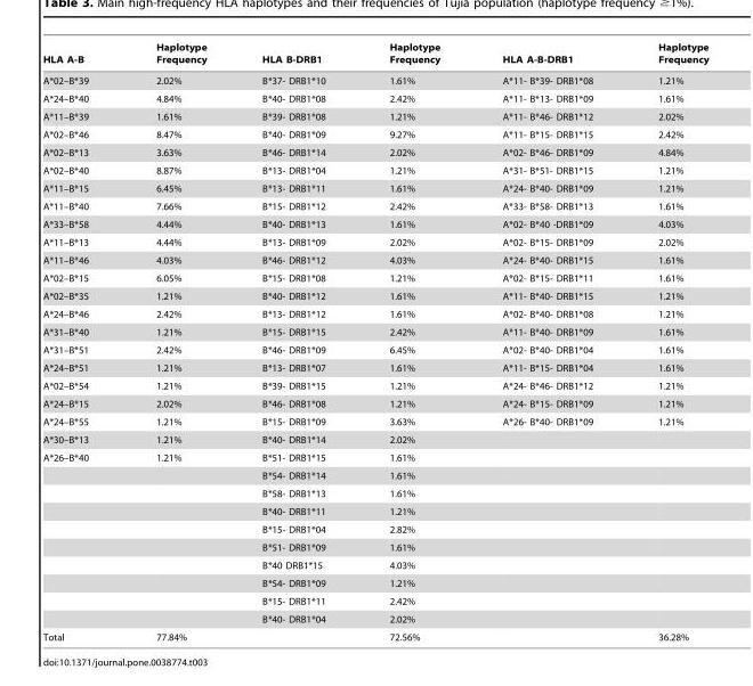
<table><thead><tr><td>HLA A-B</td><td>Haplotype Frequency</td><td>HLA B-DRB1</td><td>Haplotype Frequency</td><td>HLA A-B-DRB1</td><td>Haplotype Frequency</td></tr></thead><tbody><tr><td>A*02–B*39</td><td>2.02%</td><td>B*37- DRB1*10</td><td>1.61%</td><td>A*11- B*39- DRB1*08</td><td>1.21%</td></tr><tr><td>A*24–B*40</td><td>4.84%</td><td>B*40- DRB1*08</td><td>2.42%</td><td>A*11- B*13- DRB1*09</td><td>1.61%</td></tr><tr><td>A*11–B*39</td><td>1.61%</td><td>B*39- DRB1*08</td><td>1.21%</td><td>A*11- B*46- DRB1*12</td><td>2.02%</td></tr><tr><td>A*02–B*46</td><td>8.47%</td><td>B*40- DRB1*09</td><td>9.27%</td><td>A*11- B*15- DRB1*15</td><td>2.42%</td></tr><tr><td>A*02–B*13</td><td>3.63%</td><td>B*46- DRB1*14</td><td>2.02%</td><td>A*02- B*46- DRB1*09</td><td>4.84%</td></tr><tr><td>A*02–B*40</td><td>8.87%</td><td>B*13- DRB1*04</td><td>1.21%</td><td>A*31- B*51- DRB1*15</td><td>1.21%</td></tr><tr><td>A*11–B*15</td><td>6.45%</td><td>B*13- DRB1*11</td><td>1.61%</td><td>A*24- B*40- DRB1*09</td><td>1.21%</td></tr><tr><td>A*11–B*40</td><td>7.66%</td><td>B*15- DRB1*12</td><td>2.42%</td><td>A*33- B*58- DRB1*13</td><td>1.61%</td></tr><tr><td>A*33–B*58</td><td>4.44%</td><td>B*40- DRB1*13</td><td>1.61%</td><td>A*02- B*40 -DRB1*09</td><td>4.03%</td></tr><tr><td>A*11–B*13</td><td>4.44%</td><td>B*13- DRB1*09</td><td>2.02%</td><td>A*02- B*15- DRB1*09</td><td>2.02%</td></tr><tr><td>A*11–B*46</td><td>4.03%</td><td>B*46- DRB1*12</td><td>4.03%</td><td>A*24- B*40- DRB1*15</td><td>1.61%</td></tr><tr><td>A*02–B*15</td><td>6.05%</td><td>B*15- DRB1*08</td><td>1.21%</td><td>A*02- B*15- DRB1*11</td><td>1.61%</td></tr><tr><td>A*02–B*35</td><td>1.21%</td><td>B*40- DRB1*12</td><td>1.61%</td><td>A*11- B*40- DRB1*15</td><td>1.21%</td></tr><tr><td>A*24–B*46</td><td>2.42%</td><td>B*13- DRB1*12</td><td>1.61%</td><td>A*02- B*40- DRB1*08</td><td>1.21%</td></tr><tr><td>A*31–B*40</td><td>1.21%</td><td>B*15- DRB1*15</td><td>2.42%</td><td>A*11- B*40- DRB1*09</td><td>1.61%</td></tr><tr><td>A*31–B*51</td><td>2.42%</td><td>B*46- DRB1*09</td><td>6.45%</td><td>A*02- B*40- DRB1*04</td><td>1.61%</td></tr><tr><td>A*24–B*51</td><td>1.21%</td><td>B*13- DRB1*07</td><td>1.61%</td><td>A*11- B*15- DRB1*04</td><td>1.61%</td></tr><tr><td>A*02–B*54</td><td>1.21%</td><td>B*39- DRB1*15</td><td>1.21%</td><td>A*24- B*46- DRB1*12</td><td>1.21%</td></tr><tr><td>A*24–B*15</td><td>2.02%</td><td>B*46- DRB1*08</td><td>1.21%</td><td>A*24- B*15- DRB1*09</td><td>1.21%</td></tr><tr><td>A*24–B*55</td><td>1.21%</td><td>B*15- DRB1*09</td><td>3.63%</td><td>A*26- B*40- DRB1*09</td><td>1.21%</td></tr><tr><td>A*30–B*13</td><td>1.21%</td><td>B*40- DRB1*14</td><td>2.02%</td><td></td><td></td></tr><tr><td rowspan="10">A*26–B*40</td><td>1.21%</td><td>B*51- DRB1*15</td><td>1.61%</td><td></td><td></td></tr><tr><td></td><td>B*54- DRB1*14</td><td>1.61%</td><td></td><td></td></tr><tr><td></td><td>B*58- DRB1*13</td><td>1.61%</td><td></td><td></td></tr><tr><td></td><td>B*40- DRB1*11</td><td>1.21%</td><td></td><td></td></tr><tr><td></td><td>B*15- DRB1*04</td><td>2.82%</td><td></td><td></td></tr><tr><td></td><td>B*51- DRB1*09</td><td>1.61%</td><td></td><td></td></tr><tr><td></td><td>B*40 DRB1*15</td><td>4.03%</td><td></td><td></td></tr><tr><td></td><td>B*54- DRB1*09</td><td>1.21%</td><td></td><td></td></tr><tr><td></td><td>B*15- DRB1*11</td><td>2.42%</td><td></td><td></td></tr><tr><td></td><td>B*40- DRB1*04</td><td>2.02%</td><td></td><td></td></tr><tr><td>Total</td><td>77.84%</td><td></td><td>72.56%</td><td></td><td>36.28%</td></tr></tbody></table>